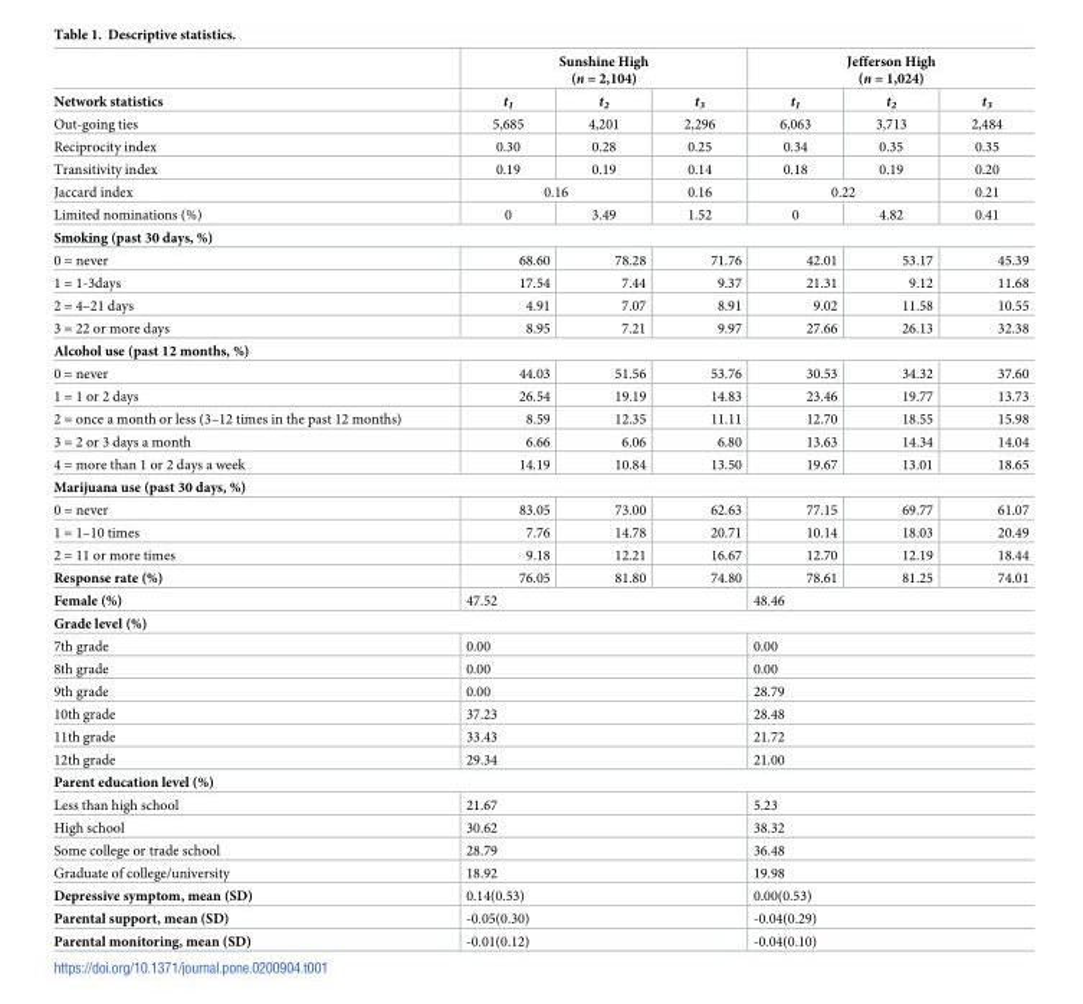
<table><thead><tr><td rowspan="2">Network statistics</td><td colspan="3">Sunshine High (n = 2,104)</td><td colspan="3">Jefferson High (n = 1,024)</td></tr><tr><td>t<sub>1</sub></td><td>t<sub>2</sub></td><td>t<sub>3</sub></td><td>t<sub>1</sub></td><td>t<sub>2</sub></td><td>t<sub>3</sub></td></tr></thead><tbody><tr><td>Out-going ties</td><td>5,685</td><td>4,201</td><td>2,296</td><td>6,063</td><td>3,713</td><td>2,484</td></tr><tr><td>Reciprocity index</td><td>0.30</td><td>0.28</td><td>0.25</td><td>0.34</td><td>0.35</td><td>0.35</td></tr><tr><td>Transitivity index</td><td>0.19</td><td>0.19</td><td>0.14</td><td>0.18</td><td>0.19</td><td>0.20</td></tr><tr><td>Jaccard index</td><td colspan="2">0.16</td><td>0.16</td><td colspan="2">0.22</td><td>0.21</td></tr><tr><td>Limited nominations (%)</td><td>0</td><td>3.49</td><td>1.52</td><td>0</td><td>4.82</td><td>0.41</td></tr><tr><td colspan="7">Smoking (past 30 days, %)</td></tr><tr><td>0 = never</td><td>68.60</td><td>78.28</td><td>71.76</td><td>42.01</td><td>53.17</td><td>45.39</td></tr><tr><td>1 = 1-3days</td><td>17.54</td><td>7.44</td><td>9.37</td><td>21.31</td><td>9.12</td><td>11.68</td></tr><tr><td>2 = 4–21 days</td><td>4.91</td><td>7.07</td><td>8.91</td><td>9.02</td><td>11.58</td><td>10.55</td></tr><tr><td>3 = 22 or more days</td><td>8.95</td><td>7.21</td><td>9.97</td><td>27.66</td><td>26.13</td><td>32.38</td></tr><tr><td colspan="7">Alcohol use (past 12 months, %)</td></tr><tr><td>0 = never</td><td>44.03</td><td>51.56</td><td>53.76</td><td>30.53</td><td>34.32</td><td>37.60</td></tr><tr><td>1 = 1 or 2 days</td><td>26.54</td><td>19.19</td><td>14.83</td><td>23.46</td><td>19.77</td><td>13.73</td></tr><tr><td>2 = once a month or less (3–12 times in the past 12 months)</td><td>8.59</td><td>12.35</td><td>11.11</td><td>12.70</td><td>18.55</td><td>15.98</td></tr><tr><td>3 = 2 or 3 days a month</td><td>6.66</td><td>6.06</td><td>6.80</td><td>13.63</td><td>14.34</td><td>14.04</td></tr><tr><td>4 = more than 1 or 2 days a week</td><td>14.19</td><td>10.84</td><td>13.50</td><td>19.67</td><td>13.01</td><td>18.65</td></tr><tr><td colspan="7">Marijuana use (past 30 days, %)</td></tr><tr><td>0 = never</td><td>83.05</td><td>73.00</td><td>62.63</td><td>77.15</td><td>69.77</td><td>61.07</td></tr><tr><td>1 = 1–10 times</td><td>7.76</td><td>14.78</td><td>20.71</td><td>10.14</td><td>18.03</td><td>20.49</td></tr><tr><td>2 = 11 or more times</td><td>9.18</td><td>12.21</td><td>16.67</td><td>12.70</td><td>12.19</td><td>18.44</td></tr><tr><td>Response rate (%)</td><td>76.05</td><td>81.80</td><td>74.80</td><td>78.61</td><td>81.25</td><td>74.01</td></tr><tr><td>Female (%)</td><td colspan="3">47.52</td><td colspan="3">48.46</td></tr><tr><td colspan="7">Grade level (%)</td></tr><tr><td>7th grade</td><td colspan="3">0.00</td><td colspan="3">0.00</td></tr><tr><td>8th grade</td><td colspan="3">0.00</td><td colspan="3">0.00</td></tr><tr><td>9th grade</td><td colspan="3">0.00</td><td colspan="3">28.79</td></tr><tr><td>10th grade</td><td colspan="3">37.23</td><td colspan="3">28.48</td></tr><tr><td>11th grade</td><td colspan="3">33.43</td><td colspan="3">21.72</td></tr><tr><td>12th grade</td><td colspan="3">29.34</td><td colspan="3">21.00</td></tr><tr><td colspan="7">Parent education level (%)</td></tr><tr><td>Less than high school</td><td colspan="3">21.67</td><td colspan="3">5.23</td></tr><tr><td>High school</td><td colspan="3">30.62</td><td colspan="3">38.32</td></tr><tr><td>Some college or trade school</td><td colspan="3">28.79</td><td colspan="3">36.48</td></tr><tr><td>Graduate of college/university</td><td colspan="3">18.92</td><td colspan="3">19.98</td></tr><tr><td>Depressive symptom, mean (SD)</td><td colspan="3">0.14(0.53)</td><td colspan="3">0.00(0.53)</td></tr><tr><td>Parental support, mean (SD)</td><td colspan="3">-0.05(0.30)</td><td colspan="3">-0.04(0.29)</td></tr><tr><td>Parental monitoring, mean (SD)</td><td colspan="3">-0.01(0.12)</td><td colspan="3">-0.04(0.10)</td></tr></tbody></table>